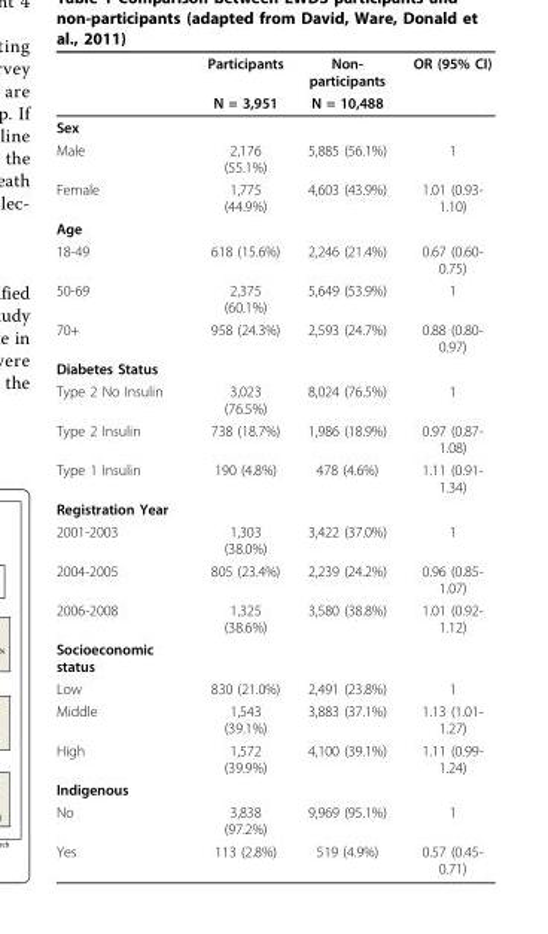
<table><thead><tr><td rowspan="2"></td><td rowspan="2">Participants N = 3,951</td><td rowspan="2">Non- participants N = 10,488</td><td rowspan="2">OR (95% CI)</td></tr><tr></tr></thead><tbody><tr><td colspan="4">Sex</td></tr><tr><td>Male</td><td>2,176 (55.1%)</td><td>5,885 (56.1%)</td><td>1</td></tr><tr><td>Female</td><td>1,775 (44.9%)</td><td>4,603 (43.9%)</td><td>1.01 (0.93- 1.10)</td></tr><tr><td colspan="4">Age</td></tr><tr><td>18-49</td><td>618 (15.6%)</td><td>2,246 (21.4%)</td><td>0.67 (0.60- 0.75)</td></tr><tr><td>50-69</td><td>2,375 (60.1%)</td><td>5,649 (53.9%)</td><td>1</td></tr><tr><td>70+</td><td>958 (24.3%)</td><td>2,593 (24.7%)</td><td>0.88 (0.80- 0.97)</td></tr><tr><td colspan="4">Diabetes Status</td></tr><tr><td>Type 2 No Insulin</td><td>3,023 (76.5%)</td><td>8,024 (76.5%)</td><td>1</td></tr><tr><td>Type 2 Insulin</td><td>738 (18.7%)</td><td>1,986 (18.9%)</td><td>0.97 (0.87- 1.08)</td></tr><tr><td>Type 1 Insulin</td><td>190 (4.8%)</td><td>478 (4.6%)</td><td>1.11 (0.91- 1.34)</td></tr><tr><td colspan="4">Registration Year</td></tr><tr><td>2001-2003</td><td>1,303 (38.0%)</td><td>3,422 (37.0%)</td><td>1</td></tr><tr><td>2004-2005</td><td>805 (23.4%)</td><td>2,239 (24.2%)</td><td>0.96 (0.85- 1.07)</td></tr><tr><td>2006-2008</td><td>1,325 (38.6%)</td><td>3,580 (38.8%)</td><td>1.01 (0.92- 1.12)</td></tr><tr><td colspan="4">Socioeconomic status</td></tr><tr><td>Low</td><td>830 (21.0%)</td><td>2,491 (23.8%)</td><td>1</td></tr><tr><td>Middle</td><td>1,543 (39.1%)</td><td>3,883 (37.1%)</td><td>1.13 (1.01- 1.27)</td></tr><tr><td>High</td><td>1,572 (39.9%)</td><td>4,100 (39.1%)</td><td>1.11 (0.99- 1.24)</td></tr><tr><td colspan="4">Indigenous</td></tr><tr><td>No</td><td>3,838 (97.2%)</td><td>9,969 (95.1%)</td><td>1</td></tr><tr><td>Yes</td><td>113 (2.8%)</td><td>519 (4.9%)</td><td>0.57 (0.45- 0.71)</td></tr></tbody></table>